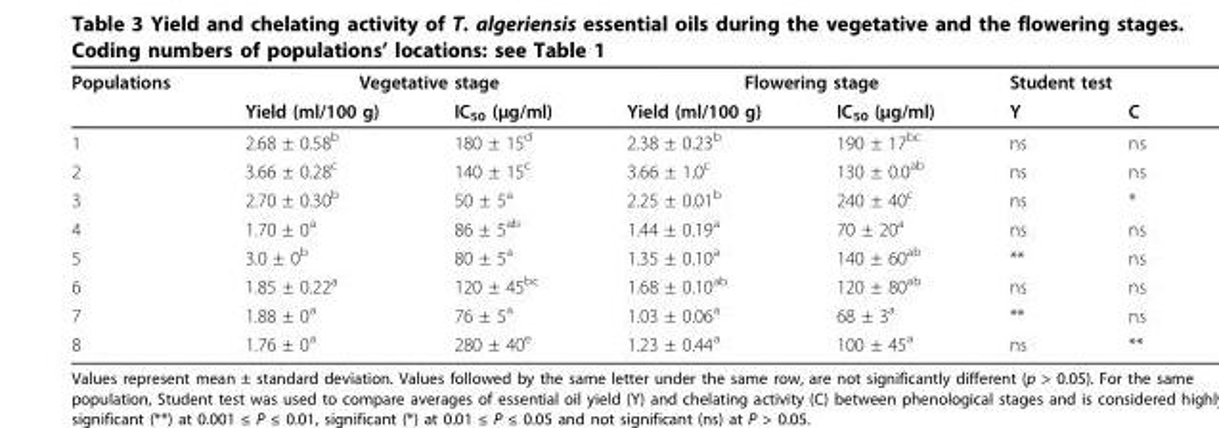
<table><thead><tr><td rowspan="2">Populations</td><td colspan="2">Vegetative stage</td><td colspan="2">Flowering stage</td><td colspan="2">Student test</td></tr><tr><td>Yield (ml/100 g)</td><td>IC<sub>50</sub> (μg/ml)</td><td>Yield (ml/100 g)</td><td>IC<sub>50</sub> (μg/ml)</td><td>Y</td><td>C</td></tr></thead><tbody><tr><td>1</td><td>2.68 ± 0.58<sup>b</sup></td><td>180 ± 15<sup>d</sup></td><td>2.38 ± 0.23<sup>b</sup></td><td>190 ± 17<sup>bc</sup></td><td>ns</td><td>ns</td></tr><tr><td>2</td><td>3.66 ± 0.28<sup>c</sup></td><td>140 ± 15<sup>c</sup></td><td>3.66 ± 1.0<sup>c</sup></td><td>130 ± 0.0<sup>ab</sup></td><td>ns</td><td>ns</td></tr><tr><td>3</td><td>2.70 ± 0.30<sup>b</sup></td><td>50 ± 5<sup>a</sup></td><td>2.25 ± 0.01<sup>b</sup></td><td>240 ± 40<sup>c</sup></td><td>ns</td><td>*</td></tr><tr><td>4</td><td>1.70 ± 0<sup>a</sup></td><td>86 ± 5<sup>ab</sup></td><td>1.44 ± 0.19<sup>a</sup></td><td>70 ± 20<sup>a</sup></td><td>ns</td><td>ns</td></tr><tr><td>5</td><td>3.0 ± 0<sup>b</sup></td><td>80 ± 5<sup>a</sup></td><td>1.35 ± 0.10<sup>a</sup></td><td>140 ± 60<sup>ab</sup></td><td>**</td><td>ns</td></tr><tr><td>6</td><td>1.85 ± 0.22<sup>a</sup></td><td>120 ± 45<sup>bc</sup></td><td>1.68 ± 0.10<sup>ab</sup></td><td>120 ± 80<sup>ab</sup></td><td>ns</td><td>ns</td></tr><tr><td>7</td><td>1.88 ± 0<sup>a</sup></td><td>76 ± 5<sup>a</sup></td><td>1.03 ± 0.06<sup>a</sup></td><td>68 ± 3<sup>a</sup></td><td>**</td><td>ns</td></tr><tr><td>8</td><td>1.76 ± 0<sup>a</sup></td><td>280 ± 40<sup>e</sup></td><td>1.23 ± 0.44<sup>a</sup></td><td>100 ± 45<sup>a</sup></td><td>ns</td><td>**</td></tr></tbody></table>